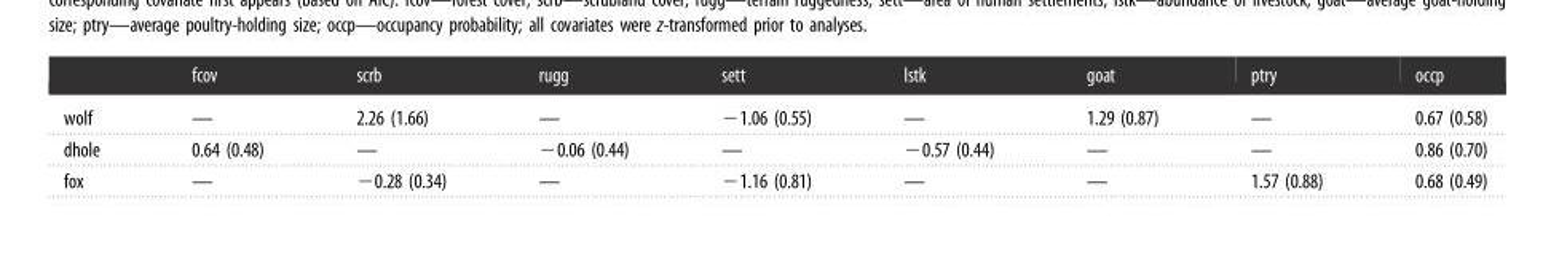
<table><thead><tr><td></td><td>fcov</td><td>scrb</td><td>rugg</td><td>sett</td><td>lstk</td><td>goat</td><td>ptry</td><td>occp</td></tr></thead><tbody><tr><td>wolf</td><td>—</td><td>2.26 (1.66)</td><td>—</td><td>−1.06 (0.55)</td><td>—</td><td>1.29 (0.87)</td><td>—</td><td>0.67 (0.58)</td></tr><tr><td>dhole</td><td>0.64 (0.48)</td><td>—</td><td>−0.06 (0.44)</td><td>—</td><td>−0.57 (0.44)</td><td>—</td><td>—</td><td>0.86 (0.70)</td></tr><tr><td>fox</td><td>—</td><td>−0.28 (0.34)</td><td>—</td><td>−1.16 (0.81)</td><td>—</td><td>—</td><td>1.57 (0.88)</td><td>0.68 (0.49)</td></tr></tbody></table>